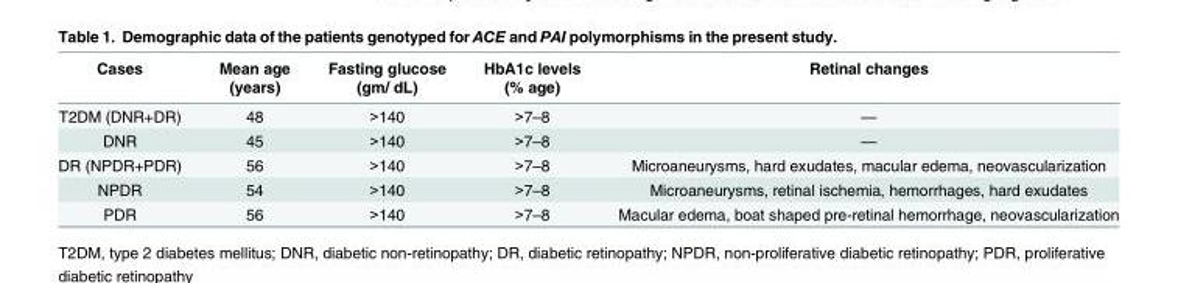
<table><thead><tr><td>Cases</td><td>Mean age (years)</td><td>Fasting glucose (gm/ dL)</td><td>HbA1c levels (% age)</td><td>Retinal changes</td></tr></thead><tbody><tr><td>T2DM (DNR+DR)</td><td>48</td><td>&gt;140</td><td>&gt;7–8</td><td>—</td></tr><tr><td>DNR</td><td>45</td><td>&gt;140</td><td>&gt;7–8</td><td>—</td></tr><tr><td>DR (NPDR+PDR)</td><td>56</td><td>&gt;140</td><td>&gt;7–8</td><td>Microaneurysms, hard exudates, macular edema, neovascularization</td></tr><tr><td>NPDR</td><td>54</td><td>&gt;140</td><td>&gt;7–8</td><td>Microaneurysms, retinal ischemia, hemorrhages, hard exudates</td></tr><tr><td>PDR</td><td>56</td><td>&gt;140</td><td>&gt;7–8</td><td>Macular edema, boat shaped pre-retinal hemorrhage, neovascularization</td></tr></tbody></table>